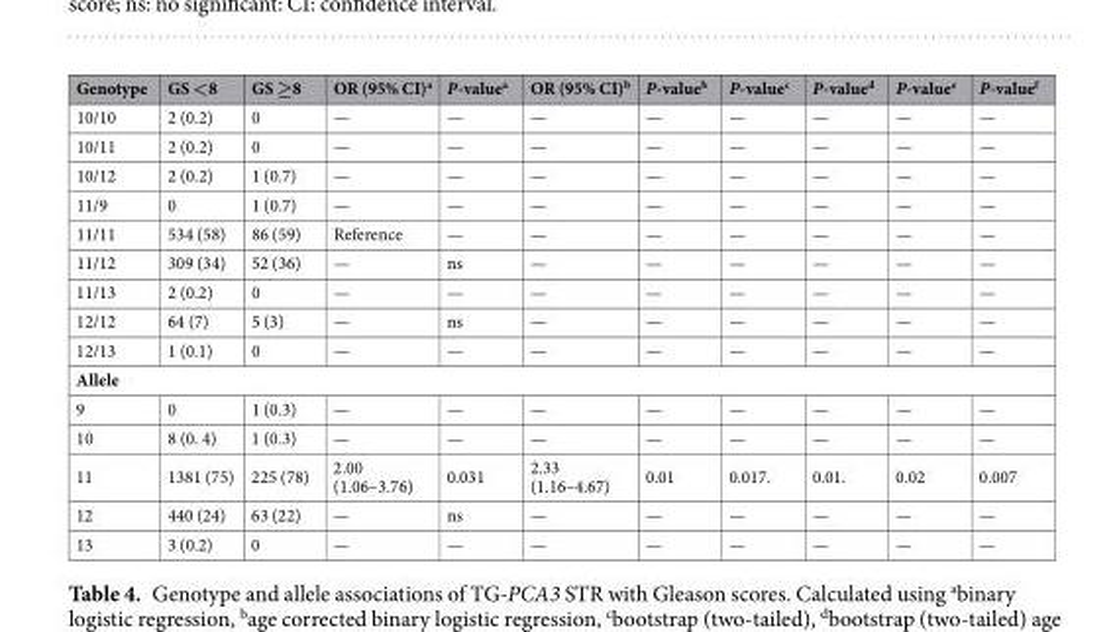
<table><thead><tr><td>Genotype</td><td>GS &lt;8</td><td>GS ≥8</td><td>OR (95% CI)<sup>a</sup></td><td>P-value<sup>a</sup></td><td>OR (95% CI)<sup>b</sup></td><td>P-value<sup>b</sup></td><td>P-value<sup>c</sup></td><td>P-value<sup>d</sup></td><td>P-value<sup>e</sup></td><td>P-value<sup>f</sup></td></tr></thead><tbody><tr><td>10/10</td><td>2 (0.2)</td><td>0</td><td>—</td><td>—</td><td>—</td><td>—</td><td>—</td><td>—</td><td>—</td><td>—</td></tr><tr><td>10/11</td><td>2 (0.2)</td><td>0</td><td>—</td><td>—</td><td>—</td><td>—</td><td>—</td><td>—</td><td>—</td><td>—</td></tr><tr><td>10/12</td><td>2 (0.2)</td><td>1 (0.7)</td><td>—</td><td>—</td><td>—</td><td>—</td><td>—</td><td>—</td><td>—</td><td>—</td></tr><tr><td>11/9</td><td>0</td><td>1 (0.7)</td><td>—</td><td>—</td><td>—</td><td>—</td><td>—</td><td>—</td><td>—</td><td>—</td></tr><tr><td>11/11</td><td>534 (58)</td><td>86 (59)</td><td>Reference</td><td>—</td><td>—</td><td>—</td><td>—</td><td>—</td><td>—</td><td>—</td></tr><tr><td>11/12</td><td>309 (34)</td><td>52 (36)</td><td>—</td><td>ns</td><td>—</td><td>—</td><td>—</td><td>—</td><td>—</td><td>—</td></tr><tr><td>11/13</td><td>2 (0.2)</td><td>0</td><td>—</td><td>—</td><td>—</td><td>—</td><td>—</td><td>—</td><td>—</td><td>—</td></tr><tr><td>12/12</td><td>64 (7)</td><td>5 (3)</td><td>—</td><td>ns</td><td>—</td><td>—</td><td>—</td><td>—</td><td>—</td><td>—</td></tr><tr><td>12/13</td><td>1 (0.1)</td><td>0</td><td>—</td><td>—</td><td>—</td><td>—</td><td>—</td><td>—</td><td>—</td><td>—</td></tr><tr><td colspan="11">Allele</td></tr><tr><td>9</td><td>0</td><td>1 (0.3)</td><td>—</td><td>—</td><td>—</td><td>—</td><td>—</td><td>—</td><td>—</td><td>—</td></tr><tr><td>10</td><td>8 (0. 4)</td><td>1 (0.3)</td><td>—</td><td>—</td><td>—</td><td>—</td><td>—</td><td>—</td><td>—</td><td>—</td></tr><tr><td>11</td><td>1381 (75)</td><td>225 (78)</td><td>2.00 (1.06–3.76)</td><td>0.031</td><td>2.33 (1.16–4.67)</td><td>0.01</td><td>0.017.</td><td>0.01.</td><td>0.02</td><td>0.007</td></tr><tr><td>12</td><td>440 (24)</td><td>63 (22)</td><td>—</td><td>ns</td><td>—</td><td>—</td><td>—</td><td>—</td><td>—</td><td>—</td></tr><tr><td>13</td><td>3 (0.2)</td><td>0</td><td>—</td><td>—</td><td>—</td><td>—</td><td>—</td><td>—</td><td>—</td><td>—</td></tr></tbody></table>